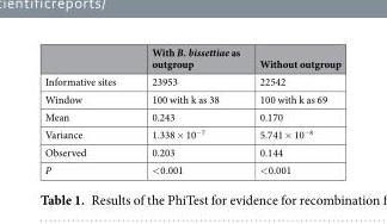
<table><thead><tr><td></td><td>With B. bissettiae as outgroup</td><td>Without outgroup</td></tr></thead><tbody><tr><td>Informative sites</td><td>23953</td><td>22542</td></tr><tr><td>Window</td><td>100 with k as 38</td><td>100 with k as 69</td></tr><tr><td>Mean</td><td>0.243</td><td>0.170</td></tr><tr><td>Variance</td><td>1.338 × 10<sup>−7</sup></td><td>5.741 × 10<sup>−8</sup></td></tr><tr><td>Observed</td><td>0.203</td><td>0.144</td></tr><tr><td>P</td><td>&lt;0.001</td><td>&lt;0.001</td></tr></tbody></table>